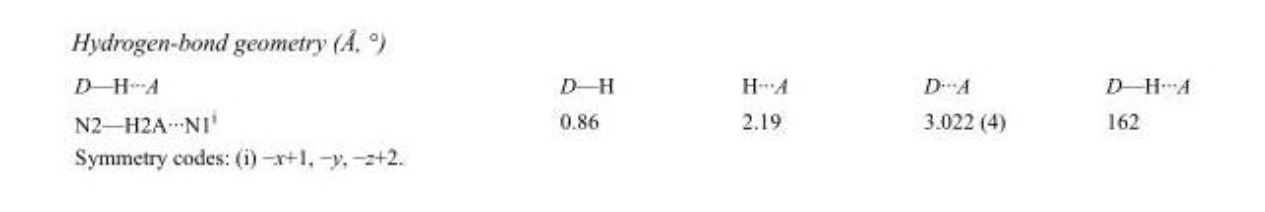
<table><tbody><tr><td>D—H···A</td><td>D—H</td><td>H···A</td><td>D···A</td><td>D—H···A</td></tr><tr><td>N2—H2A···N1<sup>i</sup></td><td>0.86</td><td>2.19</td><td>3.022 (4)</td><td>162</td></tr></tbody></table>